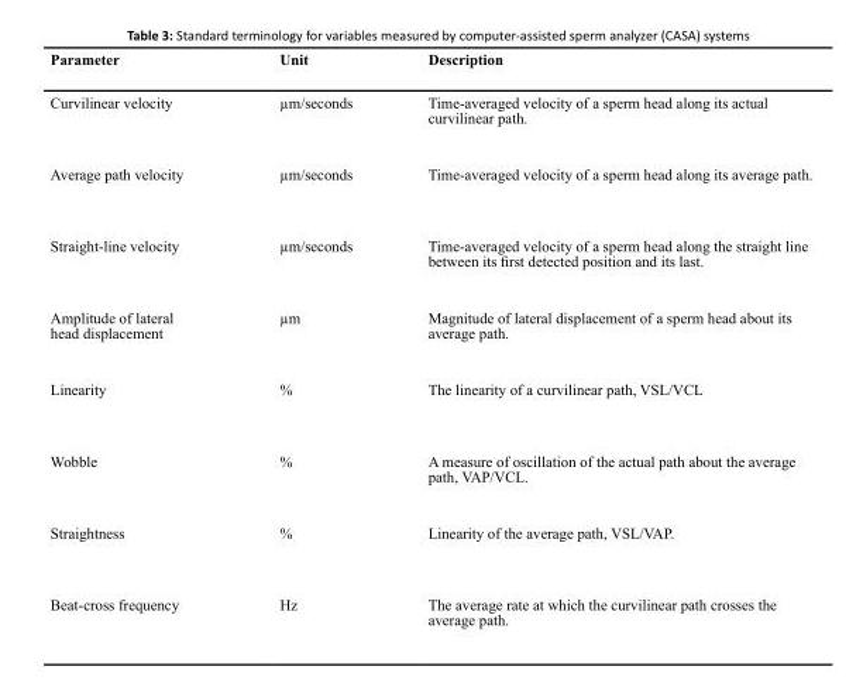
<table><tbody><tr><td>Parameter</td><td>Unit</td><td>Description</td></tr><tr><td>Curvilinear velocity</td><td>µm/seconds</td><td>Time-averaged velocity of a sperm head along its actual curvilinear path.</td></tr><tr><td>Average path velocity</td><td>µm/seconds</td><td>Time-averaged velocity of a sperm head along its average path.</td></tr><tr><td>Straight-line velocity</td><td>µm/seconds</td><td>Time-averaged velocity of a sperm head along the straight line between its first detected position and its last.</td></tr><tr><td>Amplitude of lateral head displacement</td><td>µm</td><td>Magnitude of lateral displacement of a sperm head about its average path.</td></tr><tr><td>Linearity</td><td>%</td><td>The linearity of a curvilinear path, VSL/VCL</td></tr><tr><td>Wobble</td><td>%</td><td>A measure of oscillation of the actual path about the average path, VAP/VCL.</td></tr><tr><td>Straightness</td><td>%</td><td>Linearity of the average path, VSL/VAP.</td></tr><tr><td>Beat-cross frequency</td><td>Hz</td><td>The average rate at which the curvilinear path crosses the average path.</td></tr></tbody></table>